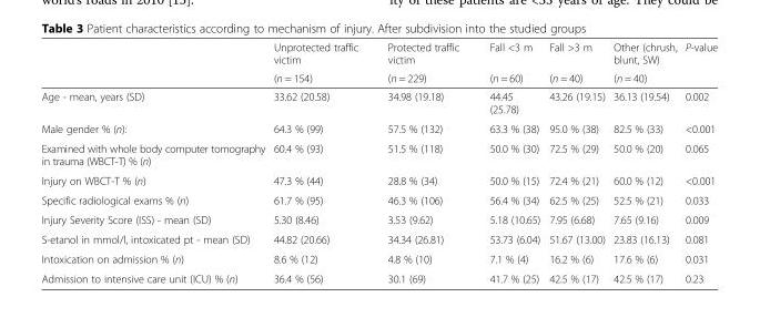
<table><thead><tr><td rowspan="2"></td><td rowspan="2">Unprotected traffic victim (n = 154)</td><td rowspan="2">Protected traffic victim (n = 229)</td><td rowspan="2">Fall &lt;3 m (n = 60)</td><td rowspan="2">Fall &gt;3 m (n = 40)</td><td rowspan="2">Other (chrush, blunt, SW) (n = 40)</td><td rowspan="2">P-value</td></tr><tr></tr></thead><tbody><tr><td>Age - mean, years (SD)</td><td>33.62 (20.58)</td><td>34.98 (19.18)</td><td>44.45 (25.78)</td><td>43.26 (19.15)</td><td>36.13 (19.54)</td><td>0.002</td></tr><tr><td>Male gender % (n):</td><td>64.3 % (99)</td><td>57.5 % (132)</td><td>63.3 % (38)</td><td>95.0 % (38)</td><td>82.5 % (33)</td><td>&lt;0.001</td></tr><tr><td>Examined with whole body computer tomography in trauma (WBCT-T) % (n)</td><td>60.4 % (93)</td><td>51.5 % (118)</td><td>50.0 % (30)</td><td>72.5 % (29)</td><td>50.0 % (20)</td><td>0.065</td></tr><tr><td>Injury on WBCT-T % (n)</td><td>47.3 % (44)</td><td>28.8 % (34)</td><td>50.0 % (15)</td><td>72.4 % (21)</td><td>60.0 % (12)</td><td>&lt;0.001</td></tr><tr><td>Specific radiological exams % (n)</td><td>61.7 % (95)</td><td>46.3 % (106)</td><td>56.4 % (34)</td><td>62.5 % (25)</td><td>52.5 % (21)</td><td>0.033</td></tr><tr><td>Injury Severity Score (ISS) - mean (SD)</td><td>5.30 (8.46)</td><td>3.53 (9.62)</td><td>5.18 (10.65)</td><td>7.95 (6.68)</td><td>7.65 (9.16)</td><td>0.009</td></tr><tr><td>S-etanol in mmol/l, intoxicated pt - mean (SD)</td><td>44.82 (20.66)</td><td>34.34 (26.81)</td><td>53.73 (6.04)</td><td>51.67 (13.00)</td><td>23.83 (16.13)</td><td>0.081</td></tr><tr><td>Intoxication on admission % (n)</td><td>8.6 % (12)</td><td>4.8 % (10)</td><td>7.1 % (4)</td><td>16.2 % (6)</td><td>17.6 % (6)</td><td>0.031</td></tr><tr><td>Admission to intensive care unit (ICU) % (n)</td><td>36.4 % (56)</td><td>30.1 (69)</td><td>41.7 % (25)</td><td>42.5 % (17)</td><td>42.5 % (17)</td><td>0.23</td></tr></tbody></table>